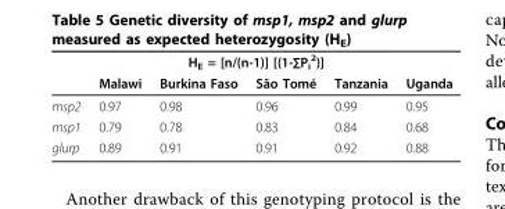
<table><thead><tr><td colspan="6">H<sub>E</sub> = [n/(n-1)] [(1-∑P<sub>i</sub> <sup>2</sup>)]</td></tr><tr><td></td><td>Malawi</td><td>Burkina Faso</td><td>São Tomé</td><td>Tanzania</td><td>Uganda</td></tr></thead><tbody><tr><td>msp2</td><td>0.97</td><td>0.98</td><td>0.96</td><td>0.99</td><td>0.95</td></tr><tr><td>msp1</td><td>0.79</td><td>0.78</td><td>0.83</td><td>0.84</td><td>0.68</td></tr><tr><td>glurp</td><td>0.89</td><td>0.91</td><td>0.91</td><td>0.92</td><td>0.88</td></tr></tbody></table>